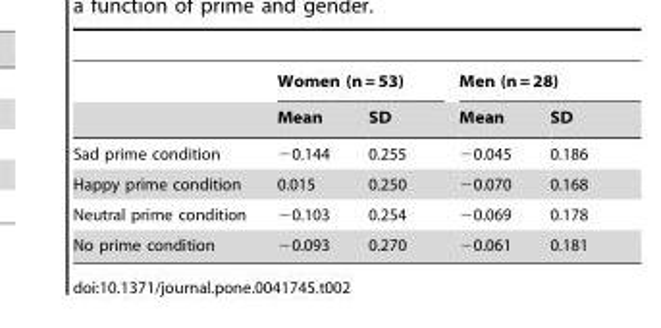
<table><thead><tr><td rowspan="2"></td><td colspan="2">Women (n = 53)</td><td colspan="2">Men (n = 28)</td></tr><tr><td>Mean</td><td>SD</td><td>Mean</td><td>SD</td></tr></thead><tbody><tr><td>Sad prime condition</td><td>−0.144</td><td>0.255</td><td>−0.045</td><td>0.186</td></tr><tr><td>Happy prime condition</td><td>0.015</td><td>0.250</td><td>−0.070</td><td>0.168</td></tr><tr><td>Neutral prime condition</td><td>−0.103</td><td>0.254</td><td>−0.069</td><td>0.178</td></tr><tr><td>No prime condition</td><td>−0.093</td><td>0.270</td><td>−0.061</td><td>0.181</td></tr></tbody></table>